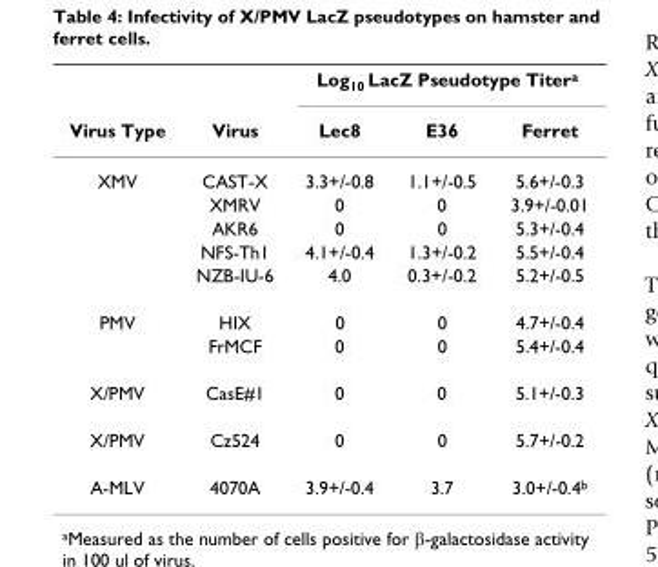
<table><thead><tr><td rowspan="2">Virus Type</td><td rowspan="2">Virus</td><td colspan="3">Log<sub>10</sub> LacZ Pseudotype Titer<sup>a</sup></td></tr><tr><td>Lec8</td><td>E36</td><td>Ferret</td></tr></thead><tbody><tr><td rowspan="5">XMV</td><td>CAST-X</td><td>3.3+/-0.8</td><td>1.1+/-0.5</td><td>5.6+/-0.3</td></tr><tr><td>XMRV</td><td>0</td><td>0</td><td>3.9+/-0.01</td></tr><tr><td>AKR6</td><td>0</td><td>0</td><td>5.3+/-0.4</td></tr><tr><td>NFS-Th1</td><td>4.1+/-0.4</td><td>1.3+/-0.2</td><td>5.5+/-0.4</td></tr><tr><td>NZB-IU-6</td><td>4.0</td><td>0.3+/-0.2</td><td>5.2+/-0.5</td></tr><tr><td rowspan="2">PMV</td><td>HIX</td><td>0</td><td>0</td><td>4.7+/-0.4</td></tr><tr><td>FrMCF</td><td>0</td><td>0</td><td>5.4+/-0.4</td></tr><tr><td>X/PMV</td><td>CasE#1</td><td>0</td><td>0</td><td>5.1+/-0.3</td></tr><tr><td>X/PMV</td><td>Cz524</td><td>0</td><td>0</td><td>5.7+/-0.2</td></tr><tr><td>A-MLV</td><td>4070A</td><td>3.9+/-0.4</td><td>3.7</td><td>3.0+/-0.4<sup>b</sup></td></tr></tbody></table>